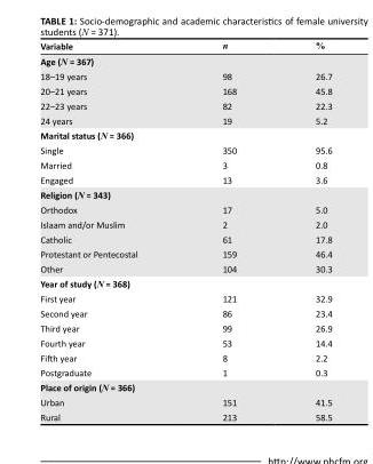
<table><thead><tr><td>Variable</td><td>n</td><td>%</td></tr></thead><tbody><tr><td colspan="3">Age (N = 367)</td></tr><tr><td>18–19 years</td><td>98</td><td>26.7</td></tr><tr><td>20–21 years</td><td>168</td><td>45.8</td></tr><tr><td>22–23 years</td><td>82</td><td>22.3</td></tr><tr><td>24 years</td><td>19</td><td>5.2</td></tr><tr><td colspan="3">Marital status (N = 366)</td></tr><tr><td>Single</td><td>350</td><td>95.6</td></tr><tr><td>Married</td><td>3</td><td>0.8</td></tr><tr><td>Engaged</td><td>13</td><td>3.6</td></tr><tr><td colspan="3">Religion (N = 343)</td></tr><tr><td>Orthodox</td><td>17</td><td>5.0</td></tr><tr><td>Islaam and/or Muslim</td><td>2</td><td>2.0</td></tr><tr><td>Catholic</td><td>61</td><td>17.8</td></tr><tr><td>Protestant or Pentecostal</td><td>159</td><td>46.4</td></tr><tr><td>Other</td><td>104</td><td>30.3</td></tr><tr><td colspan="3">Year of study (N = 368)</td></tr><tr><td>First year</td><td>121</td><td>32.9</td></tr><tr><td>Second year</td><td>86</td><td>23.4</td></tr><tr><td>Third year</td><td>99</td><td>26.9</td></tr><tr><td>Fourth year</td><td>53</td><td>14.4</td></tr><tr><td>Fifth year</td><td>8</td><td>2.2</td></tr><tr><td>Postgraduate</td><td>1</td><td>0.3</td></tr><tr><td colspan="3">Place of origin (N = 366)</td></tr><tr><td>Urban</td><td>151</td><td>41.5</td></tr><tr><td>Rural</td><td>213</td><td>58.5</td></tr></tbody></table>